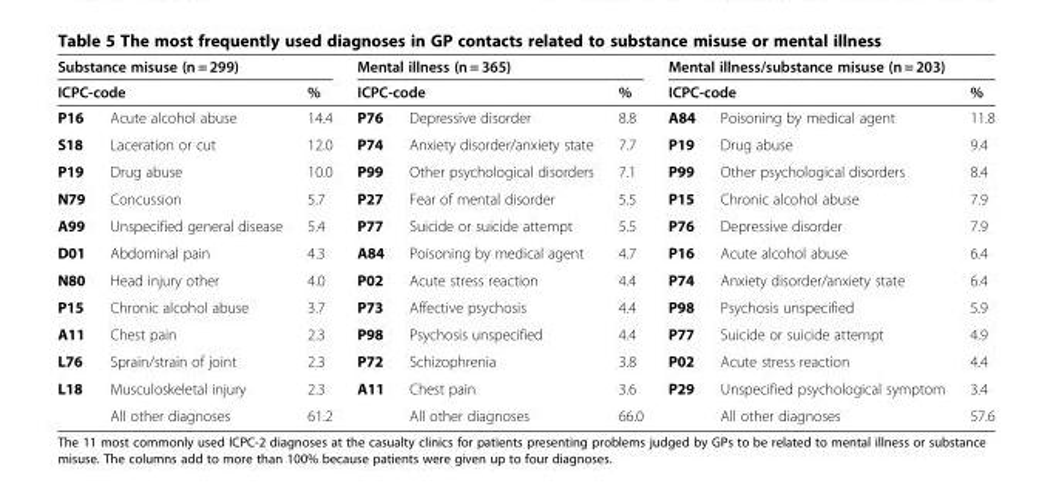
<table><thead><tr><td colspan="3">Substance misuse (n = 299)</td><td colspan="3">Mental illness (n = 365)</td><td colspan="3">Mental illness/substance misuse (n = 203)</td></tr><tr><td colspan="2">ICPC-code</td><td rowspan="2">% 14.4</td><td colspan="2">ICPC-code</td><td rowspan="2">% 8.8</td><td colspan="2">ICPC-code</td><td rowspan="2">% 11.8</td></tr><tr><td>P16</td><td>Acute alcohol abuse</td><td>P76</td><td>Depressive disorder</td><td>A84</td><td>Poisoning by medical agent</td></tr></thead><tbody><tr><td>S18</td><td>Laceration or cut</td><td>12.0</td><td>P74</td><td>Anxiety disorder/anxiety state</td><td>7.7</td><td>P19</td><td>Drug abuse</td><td>9.4</td></tr><tr><td>P19</td><td>Drug abuse</td><td>10.0</td><td>P99</td><td>Other psychological disorders</td><td>7.1</td><td>P99</td><td>Other psychological disorders</td><td>8.4</td></tr><tr><td>N79</td><td>Concussion</td><td>5.7</td><td>P27</td><td>Fear of mental disorder</td><td>5.5</td><td>P15</td><td>Chronic alcohol abuse</td><td>7.9</td></tr><tr><td>A99</td><td>Unspecified general disease</td><td>5.4</td><td>P77</td><td>Suicide or suicide attempt</td><td>5.5</td><td>P76</td><td>Depressive disorder</td><td>7.9</td></tr><tr><td>D01</td><td>Abdominal pain</td><td>4.3</td><td>A84</td><td>Poisoning by medical agent</td><td>4.7</td><td>P16</td><td>Acute alcohol abuse</td><td>6.4</td></tr><tr><td>N80</td><td>Head injury other</td><td>4.0</td><td>P02</td><td>Acute stress reaction</td><td>4.4</td><td>P74</td><td>Anxiety disorder/anxiety state</td><td>6.4</td></tr><tr><td>P15</td><td>Chronic alcohol abuse</td><td>3.7</td><td>P73</td><td>Affective psychosis</td><td>4.4</td><td>P98</td><td>Psychosis unspecified</td><td>5.9</td></tr><tr><td>A11</td><td>Chest pain</td><td>2.3</td><td>P98</td><td>Psychosis unspecified</td><td>4.4</td><td>P77</td><td>Suicide or suicide attempt</td><td>4.9</td></tr><tr><td>L76</td><td>Sprain/strain of joint</td><td>2.3</td><td>P72</td><td>Schizophrenia</td><td>3.8</td><td>P02</td><td>Acute stress reaction</td><td>4.4</td></tr><tr><td rowspan="2">L18</td><td>Musculoskeletal injury</td><td>2.3</td><td>A11</td><td>Chest pain</td><td>3.6</td><td>P29</td><td>Unspecified psychological symptom</td><td>3.4</td></tr><tr><td>All other diagnoses</td><td>61.2</td><td></td><td>All other diagnoses</td><td>66.0</td><td></td><td>All other diagnoses</td><td>57.6</td></tr></tbody></table>